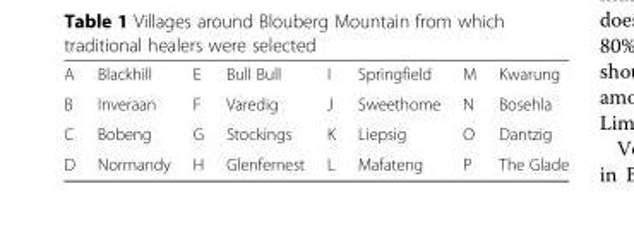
<table><tbody><tr><td>A</td><td>Blackhill</td><td>E</td><td>Bull Bull</td><td>I</td><td>Springfield</td><td>M</td><td>Kwarung</td></tr><tr><td>B</td><td>Inveraan</td><td>F</td><td>Varedig</td><td>J</td><td>Sweethome</td><td>N</td><td>Bosehla</td></tr><tr><td>C</td><td>Bobeng</td><td>G</td><td>Stockings</td><td>K</td><td>Liepsig</td><td>O</td><td>Dantzig</td></tr><tr><td>D</td><td>Normandy</td><td>H</td><td>Glenfernest</td><td>L</td><td>Mafateng</td><td>P</td><td>The Glade</td></tr></tbody></table>